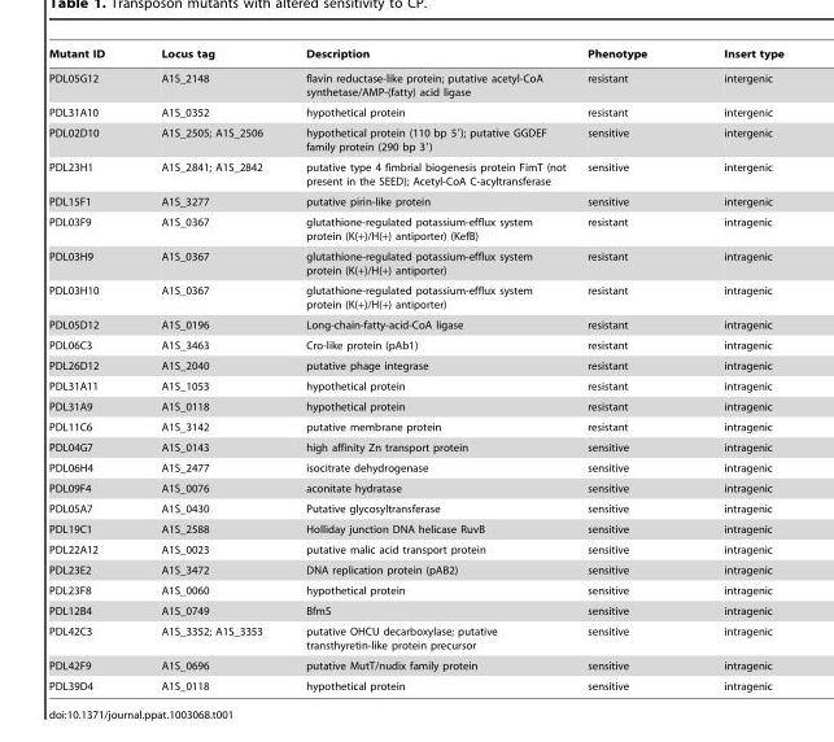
<table><thead><tr><td>Mutant ID</td><td>Locus tag</td><td>Description</td><td>Phenotype</td><td>Insert type</td></tr></thead><tbody><tr><td>PDL05G12</td><td>A1S_2148</td><td>flavin reductase-like protein; putative acetyl-CoA synthetase/AMP-(fatty) acid ligase</td><td>resistant</td><td>intergenic</td></tr><tr><td>PDL31A10</td><td>A1S_0352</td><td>hypothetical protein</td><td>resistant</td><td>intergenic</td></tr><tr><td>PDL02D10</td><td>A1S_2505; A1S_2506</td><td>hypothetical protein (110 bp 5′); putative GGDEF family protein (290 bp 3′)</td><td>sensitive</td><td>intergenic</td></tr><tr><td>PDL23H1</td><td>A1S_2841; A1S_2842</td><td>putative type 4 fimbrial biogenesis protein FimT (not present in the SEED); Acetyl-CoA C-acyltransferase</td><td>sensitive</td><td>intergenic</td></tr><tr><td>PDL15F1</td><td>A1S_3277</td><td>putative pirin-like protein</td><td>sensitive</td><td>intergenic</td></tr><tr><td>PDL03F9</td><td>A1S_0367</td><td>glutathione-regulated potassium-efflux system protein (K(+)/H(+) antiporter) (KefB)</td><td>resistant</td><td>intragenic</td></tr><tr><td>PDL03H9</td><td>A1S_0367</td><td>glutathione-regulated potassium-efflux system protein (K(+)/H(+) antiporter)</td><td>resistant</td><td>intragenic</td></tr><tr><td>PDL03H10</td><td>A1S_0367</td><td>glutathione-regulated potassium-efflux system protein (K(+)/H(+) antiporter)</td><td>resistant</td><td>intragenic</td></tr><tr><td>PDL05D12</td><td>A1S_0196</td><td>Long-chain-fatty-acid-CoA ligase</td><td>resistant</td><td>intragenic</td></tr><tr><td>PDL06C3</td><td>A1S_3463</td><td>Cro-like protein (pAb1)</td><td>resistant</td><td>intragenic</td></tr><tr><td>PDL26D12</td><td>A1S_2040</td><td>putative phage integrase</td><td>resistant</td><td>intragenic</td></tr><tr><td>PDL31A11</td><td>A1S_1053</td><td>hypothetical protein</td><td>resistant</td><td>intragenic</td></tr><tr><td>PDL31A9</td><td>A1S_0118</td><td>hypothetical protein</td><td>resistant</td><td>intragenic</td></tr><tr><td>PDL11C6</td><td>A1S_3142</td><td>putative membrane protein</td><td>resistant</td><td>intragenic</td></tr><tr><td>PDL04G7</td><td>A1S_0143</td><td>high affinity Zn transport protein</td><td>sensitive</td><td>intragenic</td></tr><tr><td>PDL06H4</td><td>A1S_2477</td><td>isocitrate dehydrogenase</td><td>sensitive</td><td>intragenic</td></tr><tr><td>PDL09F4</td><td>A1S_0076</td><td>aconitate hydratase</td><td>sensitive</td><td>intragenic</td></tr><tr><td>PDL05A7</td><td>A1S_0430</td><td>Putative glycosyltransferase</td><td>sensitive</td><td>intragenic</td></tr><tr><td>PDL19C1</td><td>A1S_2588</td><td>Holliday junction DNA helicase RuvB</td><td>sensitive</td><td>intragenic</td></tr><tr><td>PDL22A12</td><td>A1S_0023</td><td>putative malic acid transport protein</td><td>sensitive</td><td>intragenic</td></tr><tr><td>PDL23E2</td><td>A1S_3472</td><td>DNA replication protein (pAB2)</td><td>sensitive</td><td>intragenic</td></tr><tr><td>PDL23F8</td><td>A1S_0060</td><td>hypothetical protein</td><td>sensitive</td><td>intragenic</td></tr><tr><td>PDL12B4</td><td>A1S_0749</td><td>BfmS</td><td>sensitive</td><td>intragenic</td></tr><tr><td>PDL42C3</td><td>A1S_3352; A1S_3353</td><td>putative OHCU decarboxylase; putative transthyretin-like protein precursor</td><td>sensitive</td><td>intragenic</td></tr><tr><td>PDL42F9</td><td>A1S_0696</td><td>putative MutT/nudix family protein</td><td>sensitive</td><td>intragenic</td></tr><tr><td>PDL39D4</td><td>A1S_0118</td><td>hypothetical protein</td><td>sensitive</td><td>intragenic</td></tr></tbody></table>